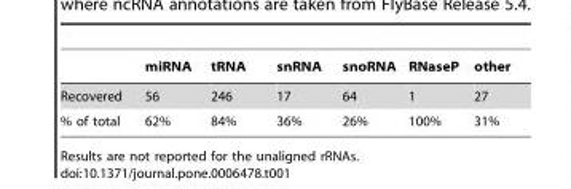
<table><thead><tr><td></td><td>miRNA</td><td>tRNA</td><td>snRNA</td><td>snoRNA</td><td>RNaseP</td><td>other</td></tr></thead><tbody><tr><td>Recovered</td><td>56</td><td>246</td><td>17</td><td>64</td><td>1</td><td>27</td></tr><tr><td>% of total</td><td>62%</td><td>84%</td><td>36%</td><td>26%</td><td>100%</td><td>31%</td></tr></tbody></table>